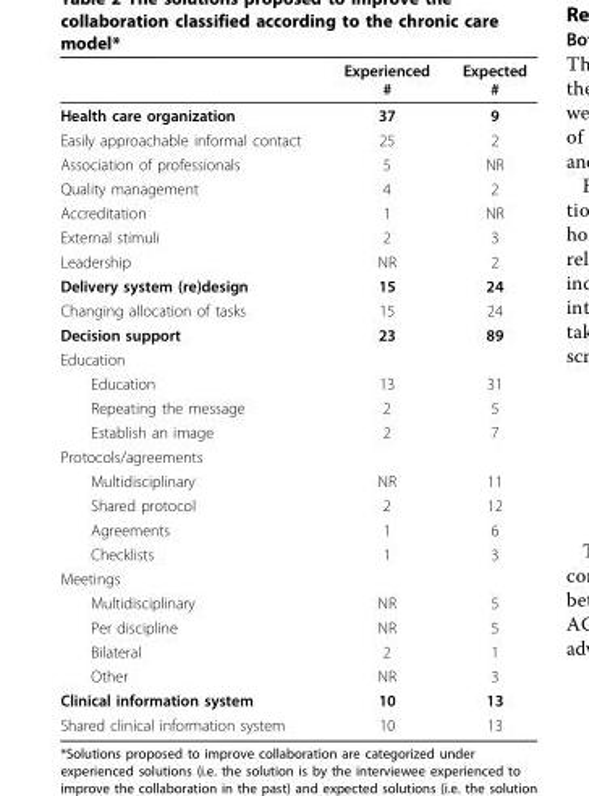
<table><thead><tr><td></td><td>Experienced #</td><td>Expected #</td></tr></thead><tbody><tr><td>Health care organization</td><td>37</td><td>9</td></tr><tr><td>Easily approachable informal contact</td><td>25</td><td>2</td></tr><tr><td>Association of professionals</td><td>5</td><td>NR</td></tr><tr><td>Quality management</td><td>4</td><td>2</td></tr><tr><td>Accreditation</td><td>1</td><td>NR</td></tr><tr><td>External stimuli</td><td>2</td><td>3</td></tr><tr><td>Leadership</td><td>NR</td><td>2</td></tr><tr><td>Delivery system (re)design</td><td>15</td><td>24</td></tr><tr><td>Changing allocation of tasks</td><td>15</td><td>24</td></tr><tr><td>Decision support</td><td>23</td><td>89</td></tr><tr><td colspan="3">Education</td></tr><tr><td>Education</td><td>13</td><td>31</td></tr><tr><td>Repeating the message</td><td>2</td><td>5</td></tr><tr><td>Establish an image</td><td>2</td><td>7</td></tr><tr><td colspan="3">Protocols/agreements</td></tr><tr><td>Multidisciplinary</td><td>NR</td><td>11</td></tr><tr><td>Shared protocol</td><td>2</td><td>12</td></tr><tr><td>Agreements</td><td>1</td><td>6</td></tr><tr><td>Checklists</td><td>1</td><td>3</td></tr><tr><td colspan="3">Meetings</td></tr><tr><td>Multidisciplinary</td><td>NR</td><td>5</td></tr><tr><td>Per discipline</td><td>NR</td><td>5</td></tr><tr><td>Bilateral</td><td>2</td><td>1</td></tr><tr><td>Other</td><td>NR</td><td>3</td></tr><tr><td>Clinical information system</td><td>10</td><td>13</td></tr><tr><td>Shared clinical information system</td><td>10</td><td>13</td></tr></tbody></table>